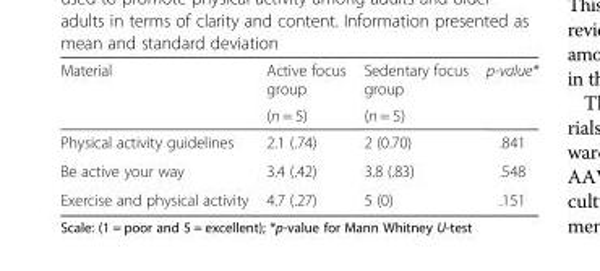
<table><thead><tr><td rowspan="2">Material</td><td rowspan="2">Active focus group (n = 5)</td><td rowspan="2">Sedentary focus group (n = 5)</td><td rowspan="2">p-value*</td></tr><tr></tr></thead><tbody><tr><td>Physical activity guidelines</td><td>2.1 (.74)</td><td>2 (0.70)</td><td>.841</td></tr><tr><td>Be active your way</td><td>3.4 (.42)</td><td>3.8 (.83)</td><td>.548</td></tr><tr><td>Exercise and physical activity</td><td>4.7 (.27)</td><td>5 (0)</td><td>.151</td></tr></tbody></table>